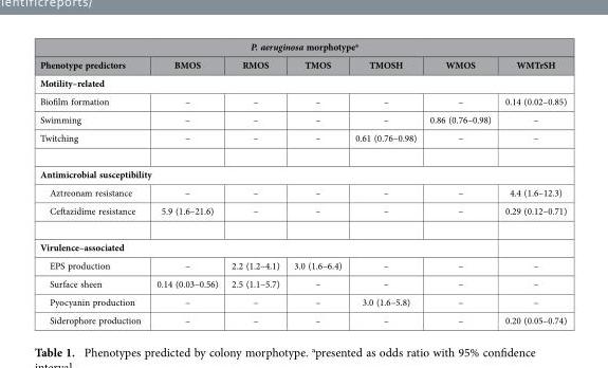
<table><thead><tr><td colspan="7">P. aeruginosa morphotype<sup>a</sup></td></tr><tr><td>Phenotype predictors</td><td>BMOS</td><td>RMOS</td><td>TMOS</td><td>TMOSH</td><td>WMOS</td><td>WMTrSH</td></tr></thead><tbody><tr><td colspan="7">Motility–related</td></tr><tr><td>Biofilm formation</td><td>–</td><td>–</td><td>–</td><td>–</td><td>–</td><td>0.14 (0.02–0.85)</td></tr><tr><td>Swimming</td><td>–</td><td>–</td><td>–</td><td>–</td><td>0.86 (0.76–0.98)</td><td>–</td></tr><tr><td>Twitching</td><td>–</td><td>–</td><td>–</td><td>0.61 (0.76–0.98)</td><td>–</td><td>–</td></tr><tr><td colspan="7">Antimicrobial susceptibility</td></tr><tr><td>Aztreonam resistance</td><td>–</td><td>–</td><td>–</td><td>–</td><td>–</td><td>4.4 (1.6–12.3)</td></tr><tr><td>Ceftazidime resistance</td><td>5.9 (1.6–21.6)</td><td>–</td><td>–</td><td>–</td><td>–</td><td>0.29 (0.12–0.71)</td></tr><tr><td colspan="7">Virulence–associated</td></tr><tr><td>EPS production</td><td>–</td><td>2.2 (1.2–4.1)</td><td>3.0 (1.6–6.4)</td><td>–</td><td>–</td><td>–</td></tr><tr><td>Surface sheen</td><td>0.14 (0.03–0.56)</td><td>2.5 (1.1–5.7)</td><td>–</td><td>–</td><td>–</td><td>–</td></tr><tr><td>Pyocyanin production</td><td>–</td><td>–</td><td>–</td><td>3.0 (1.6–5.8)</td><td>–</td><td>–</td></tr><tr><td>Siderophore production</td><td>–</td><td>–</td><td>–</td><td>–</td><td>–</td><td>0.20 (0.05–0.74)</td></tr></tbody></table>